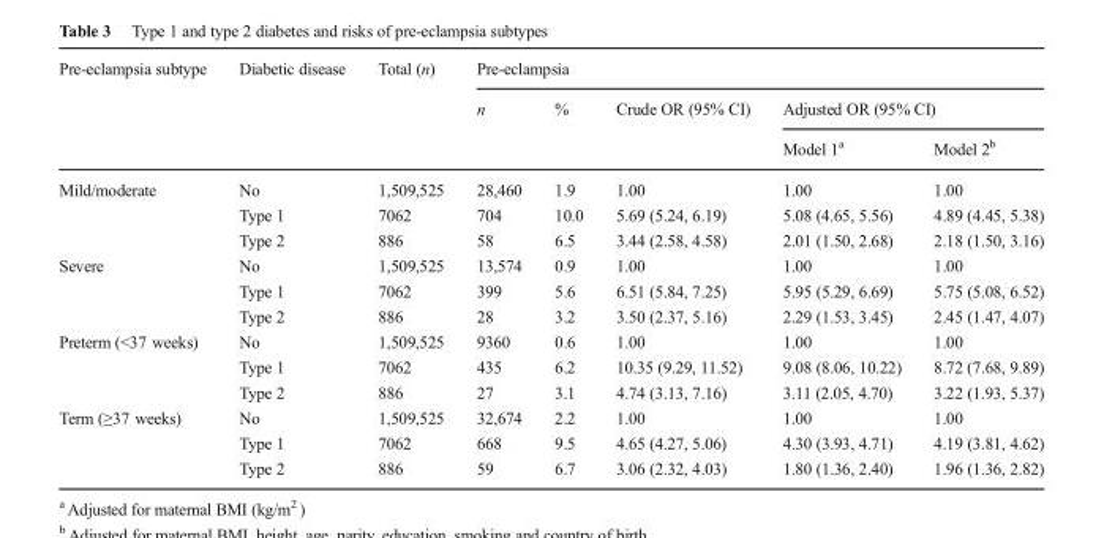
<table><thead><tr><td rowspan="3">Pre-eclampsia subtype</td><td rowspan="3">Diabetic disease</td><td rowspan="3">Total (n)</td><td colspan="5">Pre-eclampsia</td></tr><tr><td rowspan="2">n</td><td rowspan="2">%</td><td rowspan="2">Crude OR (95% CI)</td><td colspan="2">Adjusted OR (95% CI)</td></tr><tr><td>Model 1<sup>a</sup></td><td>Model 2<sup>b</sup></td></tr></thead><tbody><tr><td rowspan="3">Mild/moderate</td><td>No</td><td>1,509,525</td><td>28,460</td><td>1.9</td><td>1.00</td><td>1.00</td><td>1.00</td></tr><tr><td>Type 1</td><td>7062</td><td>704</td><td>10.0</td><td>5.69 (5.24, 6.19)</td><td>5.08 (4.65, 5.56)</td><td>4.89 (4.45, 5.38)</td></tr><tr><td>Type 2</td><td>886</td><td>58</td><td>6.5</td><td>3.44 (2.58, 4.58)</td><td>2.01 (1.50, 2.68)</td><td>2.18 (1.50, 3.16)</td></tr><tr><td rowspan="3">Severe</td><td>No</td><td>1,509,525</td><td>13,574</td><td>0.9</td><td>1.00</td><td>1.00</td><td>1.00</td></tr><tr><td>Type 1</td><td>7062</td><td>399</td><td>5.6</td><td>6.51 (5.84, 7.25)</td><td>5.95 (5.29, 6.69)</td><td>5.75 (5.08, 6.52)</td></tr><tr><td>Type 2</td><td>886</td><td>28</td><td>3.2</td><td>3.50 (2.37, 5.16)</td><td>2.29 (1.53, 3.45)</td><td>2.45 (1.47, 4.07)</td></tr><tr><td rowspan="3">Preterm (&lt;37 weeks)</td><td>No</td><td>1,509,525</td><td>9360</td><td>0.6</td><td>1.00</td><td>1.00</td><td>1.00</td></tr><tr><td>Type 1</td><td>7062</td><td>435</td><td>6.2</td><td>10.35 (9.29, 11.52)</td><td>9.08 (8.06, 10.22)</td><td>8.72 (7.68, 9.89)</td></tr><tr><td>Type 2</td><td>886</td><td>27</td><td>3.1</td><td>4.74 (3.13, 7.16)</td><td>3.11 (2.05, 4.70)</td><td>3.22 (1.93, 5.37)</td></tr><tr><td rowspan="3">Term (≥37 weeks)</td><td>No</td><td>1,509,525</td><td>32,674</td><td>2.2</td><td>1.00</td><td>1.00</td><td>1.00</td></tr><tr><td>Type 1</td><td>7062</td><td>668</td><td>9.5</td><td>4.65 (4.27, 5.06)</td><td>4.30 (3.93, 4.71)</td><td>4.19 (3.81, 4.62)</td></tr><tr><td>Type 2</td><td>886</td><td>59</td><td>6.7</td><td>3.06 (2.32, 4.03)</td><td>1.80 (1.36, 2.40)</td><td>1.96 (1.36, 2.82)</td></tr></tbody></table>